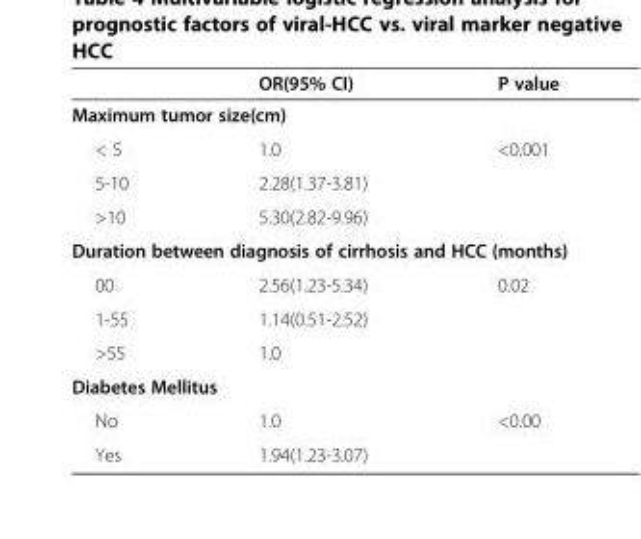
<table><thead><tr><td></td><td>OR(95% CI)</td><td>P value</td></tr></thead><tbody><tr><td colspan="3">Maximum tumor size(cm)</td></tr><tr><td>&lt; 5</td><td>1.0</td><td>&lt;0.001</td></tr><tr><td>5-10</td><td>2.28(1.37-3.81)</td><td></td></tr><tr><td>&gt;10</td><td>5.30(2.82-9.96)</td><td></td></tr><tr><td colspan="3">Duration between diagnosis of cirrhosis and HCC (months)</td></tr><tr><td>00</td><td>2.56(1.23-5.34)</td><td>0.02</td></tr><tr><td>1-55</td><td>1.14(0.51-2.52)</td><td></td></tr><tr><td>&gt;55</td><td>1.0</td><td></td></tr><tr><td colspan="3">Diabetes Mellitus</td></tr><tr><td>No</td><td>1.0</td><td>&lt;0.00</td></tr><tr><td>Yes</td><td>1.94(1.23-3.07)</td><td></td></tr></tbody></table>